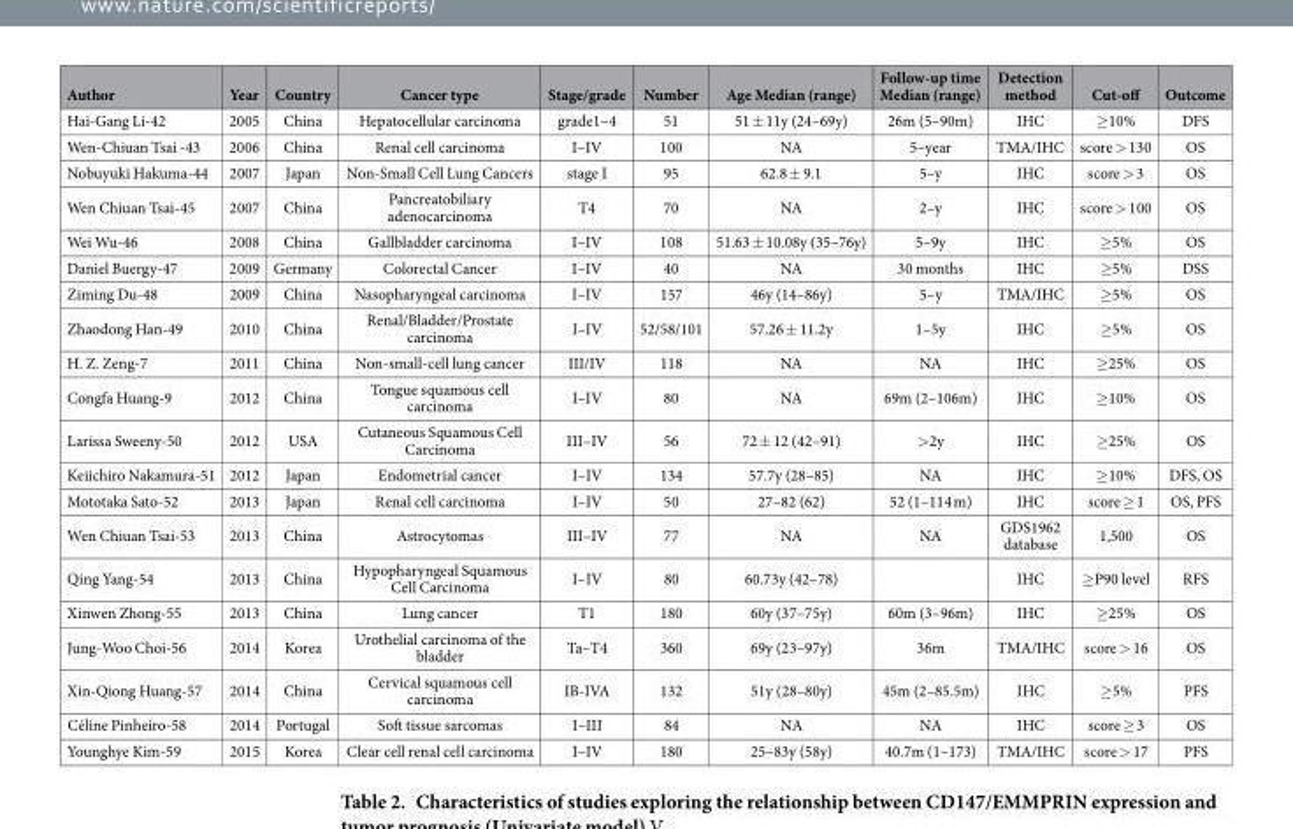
<table><thead><tr><td>Author</td><td>Year</td><td>Country</td><td>Cancer type</td><td>Stage/grade</td><td>Number</td><td>Age Median (range)</td><td>Follow-up time Median (range)</td><td>Detection method</td><td>Cut-off</td><td>Outcome</td></tr></thead><tbody><tr><td>Hai-Gang Li-42</td><td>2005</td><td>China</td><td>Hepatocellular carcinoma</td><td>grade1–4</td><td>51</td><td>51 ± 11y (24–69y)</td><td>26m (5–90m)</td><td>IHC</td><td>≥ 10%</td><td>DFS</td></tr><tr><td>Wen-Chiuan Tsai -43</td><td>2006</td><td>China</td><td>Renal cell carcinoma</td><td>I–IV</td><td>100</td><td>NA</td><td>5–year</td><td>TMA/IHC</td><td>score &gt; 130</td><td>OS</td></tr><tr><td>Nobuyuki Hakuma-44</td><td>2007</td><td>Japan</td><td>Non-Small Cell Lung Cancers</td><td>stage I</td><td>95</td><td>62.8 ± 9.1</td><td>5–y</td><td>IHC</td><td>score &gt; 3</td><td>OS</td></tr><tr><td>Wen Chiuan Tsai-45</td><td>2007</td><td>China</td><td>Pancreatobiliary adenocarcinoma</td><td>T4</td><td>70</td><td>NA</td><td>2–y</td><td>IHC</td><td>score &gt; 100</td><td>OS</td></tr><tr><td>Wei Wu-46</td><td>2008</td><td>China</td><td>Gallbladder carcinoma</td><td>I–IV</td><td>108</td><td>51.63 ± 10.08y (35–76y)</td><td>5–9y</td><td>IHC</td><td>≥ 5%</td><td>OS</td></tr><tr><td>Daniel Buergy-47</td><td>2009</td><td>Germany</td><td>Colorectal Cancer</td><td>I–IV</td><td>40</td><td>NA</td><td>30 months</td><td>IHC</td><td>≥ 5%</td><td>DSS</td></tr><tr><td>Ziming Du-48</td><td>2009</td><td>China</td><td>Nasopharyngeal carcinoma</td><td>I–IV</td><td>157</td><td>46y (14–86y)</td><td>5–y</td><td>TMA/IHC</td><td>≥ 5%</td><td>OS</td></tr><tr><td>Zhaodong Han-49</td><td>2010</td><td>China</td><td>Renal/Bladder/Prostate carcinoma</td><td>I–IV</td><td>52/58/101</td><td>57.26 ± 11.2y</td><td>1–5y</td><td>IHC</td><td>≥ 5%</td><td>OS</td></tr><tr><td>H. Z. Zeng-7</td><td>2011</td><td>China</td><td>Non-small-cell lung cancer</td><td>III/IV</td><td>118</td><td>NA</td><td>NA</td><td>IHC</td><td>≥ 25%</td><td>OS</td></tr><tr><td>Congfa Huang-9</td><td>2012</td><td>China</td><td>Tongue squamous cell carcinoma</td><td>I–IV</td><td>80</td><td>NA</td><td>69m (2–106m)</td><td>IHC</td><td>≥ 10%</td><td>OS</td></tr><tr><td>Larissa Sweeny-50</td><td>2012</td><td>USA</td><td>Cutaneous Squamous Cell Carcinoma</td><td>III–IV</td><td>56</td><td>72 ± 12 (42–91)</td><td>&gt; 2y</td><td>IHC</td><td>≥ 25%</td><td>OS</td></tr><tr><td>Keiichiro Nakamura-51</td><td>2012</td><td>Japan</td><td>Endometrial cancer</td><td>I–IV</td><td>134</td><td>57.7y (28–85)</td><td>NA</td><td>IHC</td><td>≥ 10%</td><td>DFS, OS</td></tr><tr><td>Mototaka Sato-52</td><td>2013</td><td>Japan</td><td>Renal cell carcinoma</td><td>I–IV</td><td>50</td><td>27–82 (62)</td><td>52 (1–114 m)</td><td>IHC</td><td>score ≥ 1</td><td>OS, PFS</td></tr><tr><td>Wen Chiuan Tsai-53</td><td>2013</td><td>China</td><td>Astrocytomas</td><td>III–IV</td><td>77</td><td>NA</td><td>NA</td><td>GDS1962 database</td><td>1,500</td><td>OS</td></tr><tr><td>Qing Yang-54</td><td>2013</td><td>China</td><td>Hypopharyngeal Squamous Cell Carcinoma</td><td>I–IV</td><td>80</td><td>60.73y (42–78)</td><td></td><td>IHC</td><td>≥ P90 level</td><td>RFS</td></tr><tr><td>Xinwen Zhong-55</td><td>2013</td><td>China</td><td>Lung cancer</td><td>T1</td><td>180</td><td>60y (37–75y)</td><td>60m (3–96m)</td><td>IHC</td><td>≥ 25%</td><td>OS</td></tr><tr><td>Jung-Woo Choi-56</td><td>2014</td><td>Korea</td><td>Urothelial carcinoma of the bladder</td><td>Ta–T4</td><td>360</td><td>69y (23–97y)</td><td>36m</td><td>TMA/IHC</td><td>score &gt; 16</td><td>OS</td></tr><tr><td>Xin-Qiong Huang-57</td><td>2014</td><td>China</td><td>Cervical squamous cell carcinoma</td><td>IB-IVA</td><td>132</td><td>51y (28–80y)</td><td>45m (2–85.5m)</td><td>IHC</td><td>≥ 5%</td><td>PFS</td></tr><tr><td>Céline Pinheiro-58</td><td>2014</td><td>Portugal</td><td>Soft tissue sarcomas</td><td>I–III</td><td>84</td><td>NA</td><td>NA</td><td>IHC</td><td>score ≥ 3</td><td>OS</td></tr><tr><td>Younghye Kim-59</td><td>2015</td><td>Korea</td><td>Clear cell renal cell carcinoma</td><td>I–IV</td><td>180</td><td>25–83y (58y)</td><td>40.7m (1–173)</td><td>TMA/IHC</td><td>score &gt; 17</td><td>PFS</td></tr></tbody></table>